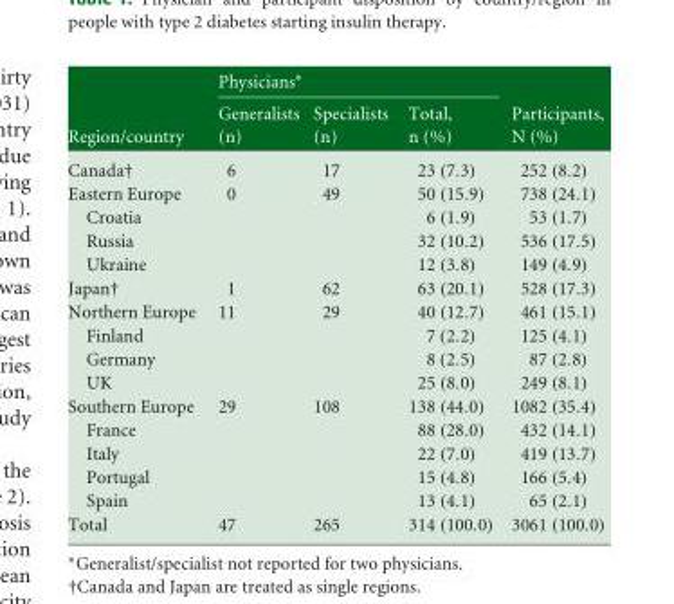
<table><thead><tr><td rowspan="2">Region/country</td><td colspan="3">Physicians∗</td><td rowspan="2">Participants, N (%)</td></tr><tr><td>Generalists (n)</td><td>Specialists (n)</td><td>Total, n (%)</td></tr></thead><tbody><tr><td>Canada†</td><td>6</td><td>17</td><td>23 (7.3)</td><td>252 (8.2)</td></tr><tr><td>Eastern Europe</td><td>0</td><td>49</td><td>50 (15.9)</td><td>738 (24.1)</td></tr><tr><td>Croatia</td><td></td><td></td><td>6 (1.9)</td><td>53 (1.7)</td></tr><tr><td>Russia</td><td></td><td></td><td>32 (10.2)</td><td>536 (17.5)</td></tr><tr><td>Ukraine</td><td></td><td></td><td>12 (3.8)</td><td>149 (4.9)</td></tr><tr><td>Japan†</td><td>1</td><td>62</td><td>63 (20.1)</td><td>528 (17.3)</td></tr><tr><td>Northern Europe</td><td>11</td><td>29</td><td>40 (12.7)</td><td>461 (15.1)</td></tr><tr><td>Finland</td><td></td><td></td><td>7 (2.2)</td><td>125 (4.1)</td></tr><tr><td>Germany</td><td></td><td></td><td>8 (2.5)</td><td>87 (2.8)</td></tr><tr><td>UK</td><td></td><td></td><td>25 (8.0)</td><td>249 (8.1)</td></tr><tr><td>Southern Europe</td><td>29</td><td>108</td><td>138 (44.0)</td><td>1082 (35.4)</td></tr><tr><td>France</td><td></td><td></td><td>88 (28.0)</td><td>432 (14.1)</td></tr><tr><td>Italy</td><td></td><td></td><td>22 (7.0)</td><td>419 (13.7)</td></tr><tr><td>Portugal</td><td></td><td></td><td>15 (4.8)</td><td>166 (5.4)</td></tr><tr><td>Spain</td><td></td><td></td><td>13 (4.1)</td><td>65 (2.1)</td></tr><tr><td>Total</td><td>47</td><td>265</td><td>314 (100.0)</td><td>3061 (100.0)</td></tr></tbody></table>